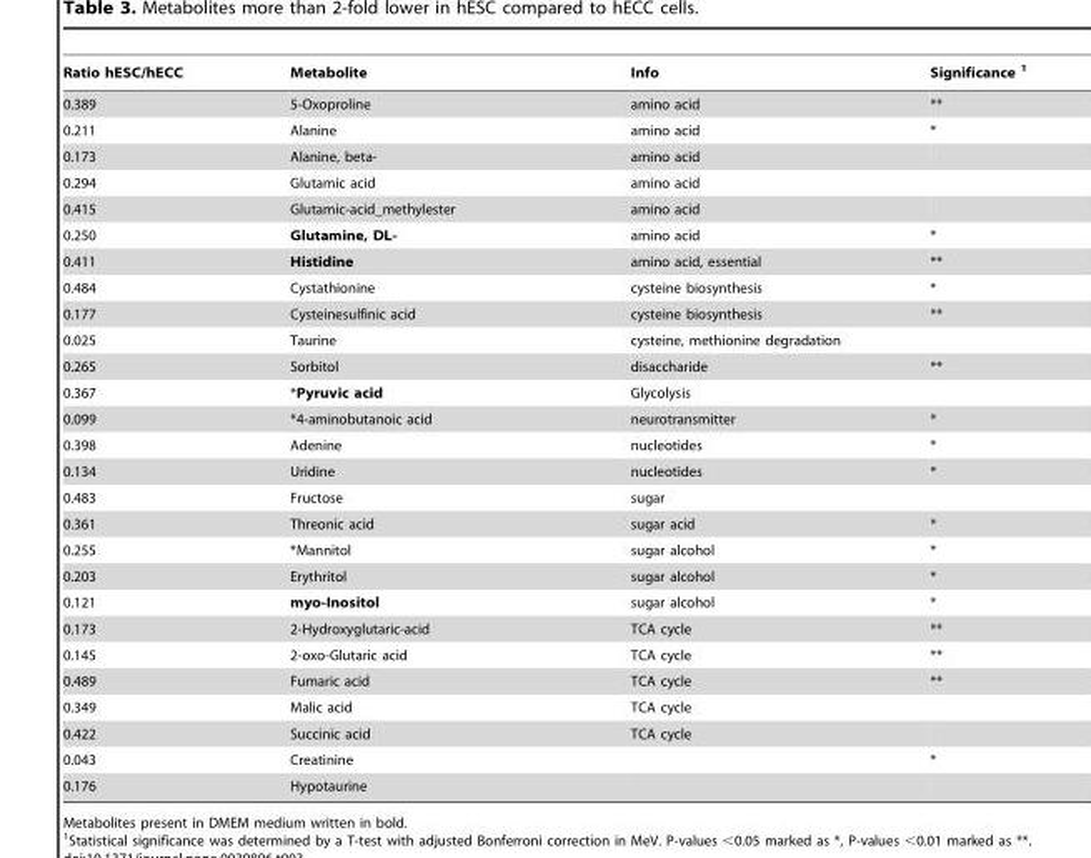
<table><thead><tr><td>Ratio hESC/hECC</td><td>Metabolite</td><td>Info</td><td>Significance 1</td></tr></thead><tbody><tr><td>0.389</td><td>5-Oxoproline</td><td>amino acid</td><td>**</td></tr><tr><td>0.211</td><td>Alanine</td><td>amino acid</td><td>*</td></tr><tr><td>0.173</td><td>Alanine, beta-</td><td>amino acid</td><td></td></tr><tr><td>0.294</td><td>Glutamic acid</td><td>amino acid</td><td></td></tr><tr><td>0.415</td><td>Glutamic-acid_methylester</td><td>amino acid</td><td></td></tr><tr><td>0.250</td><td>Glutamine, DL-</td><td>amino acid</td><td>*</td></tr><tr><td>0.411</td><td>Histidine</td><td>amino acid, essential</td><td>**</td></tr><tr><td>0.484</td><td>Cystathionine</td><td>cysteine biosynthesis</td><td>*</td></tr><tr><td>0.177</td><td>Cysteinesulfinic acid</td><td>cysteine biosynthesis</td><td>**</td></tr><tr><td>0.025</td><td>Taurine</td><td>cysteine, methionine degradation</td><td></td></tr><tr><td>0.265</td><td>Sorbitol</td><td>disaccharide</td><td>**</td></tr><tr><td>0.367</td><td>*Pyruvic acid</td><td>Glycolysis</td><td></td></tr><tr><td>0.099</td><td>*4-aminobutanoic acid</td><td>neurotransmitter</td><td>*</td></tr><tr><td>0.398</td><td>Adenine</td><td>nucleotides</td><td>*</td></tr><tr><td>0.134</td><td>Uridine</td><td>nucleotides</td><td>*</td></tr><tr><td>0.483</td><td>Fructose</td><td>sugar</td><td></td></tr><tr><td>0.361</td><td>Threonic acid</td><td>sugar acid</td><td>*</td></tr><tr><td>0.255</td><td>*Mannitol</td><td>sugar alcohol</td><td>*</td></tr><tr><td>0.203</td><td>Erythritol</td><td>sugar alcohol</td><td>*</td></tr><tr><td>0.121</td><td>myo-Inositol</td><td>sugar alcohol</td><td>*</td></tr><tr><td>0.173</td><td>2-Hydroxyglutaric-acid</td><td>TCA cycle</td><td>**</td></tr><tr><td>0.145</td><td>2-oxo-Glutaric acid</td><td>TCA cycle</td><td>**</td></tr><tr><td>0.489</td><td>Fumaric acid</td><td>TCA cycle</td><td>**</td></tr><tr><td>0.349</td><td>Malic acid</td><td>TCA cycle</td><td></td></tr><tr><td>0.422</td><td>Succinic acid</td><td>TCA cycle</td><td></td></tr><tr><td>0.043</td><td>Creatinine</td><td></td><td>*</td></tr><tr><td>0.176</td><td>Hypotaurine</td><td></td><td></td></tr></tbody></table>